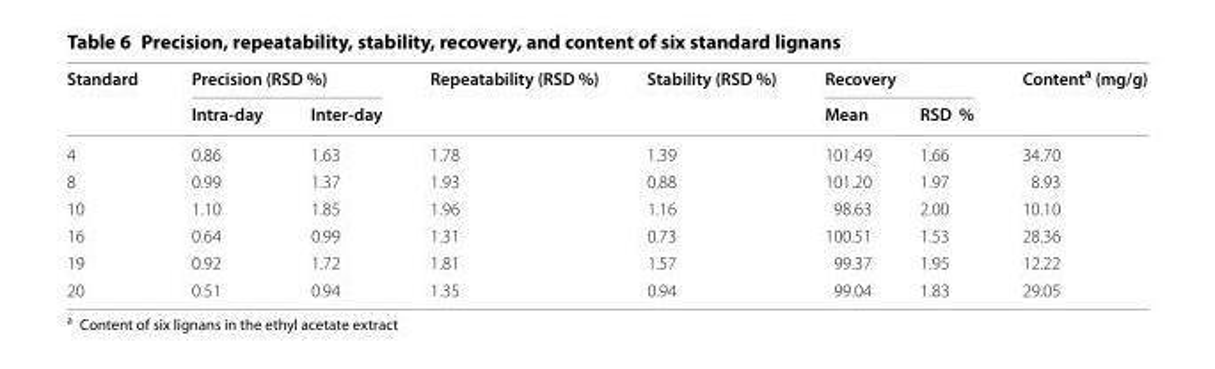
<table><thead><tr><td rowspan="2">Standard</td><td colspan="2">Precision (RSD %)</td><td rowspan="2">Repeatability (RSD %)</td><td rowspan="2">Stability (RSD %)</td><td colspan="2">Recovery</td><td rowspan="2">Content<sup>a</sup> (mg/g)</td></tr><tr><td>Intra-day</td><td>Inter-day</td><td>Mean</td><td>RSD %</td></tr></thead><tbody><tr><td>4</td><td>0.86</td><td>1.63</td><td>1.78</td><td>1.39</td><td>101.49</td><td>1.66</td><td>34.70</td></tr><tr><td>8</td><td>0.99</td><td>1.37</td><td>1.93</td><td>0.88</td><td>101.20</td><td>1.97</td><td>8.93</td></tr><tr><td>10</td><td>1.10</td><td>1.85</td><td>1.96</td><td>1.16</td><td>98.63</td><td>2.00</td><td>10.10</td></tr><tr><td>16</td><td>0.64</td><td>0.99</td><td>1.31</td><td>0.73</td><td>100.51</td><td>1.53</td><td>28.36</td></tr><tr><td>19</td><td>0.92</td><td>1.72</td><td>1.81</td><td>1.57</td><td>99.37</td><td>1.95</td><td>12.22</td></tr><tr><td>20</td><td>0.51</td><td>0.94</td><td>1.35</td><td>0.94</td><td>99.04</td><td>1.83</td><td>29.05</td></tr></tbody></table>